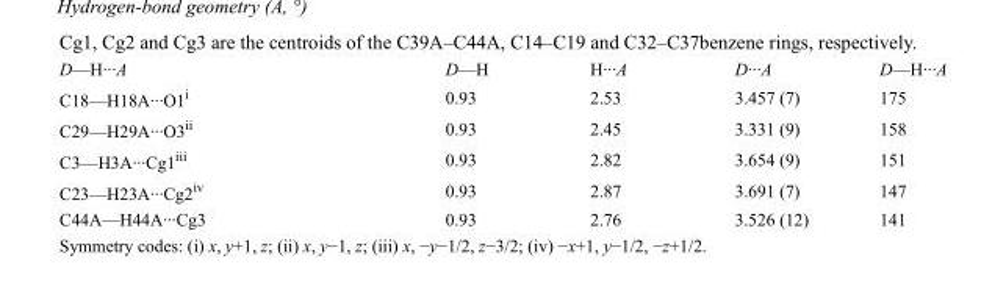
<table><tbody><tr><td>D—H···A</td><td>D—H</td><td>H···A</td><td>D···A</td><td>D—H···A</td></tr><tr><td>C18—H18A···O1<sup>i</sup></td><td>0.93</td><td>2.53</td><td>3.457 (7)</td><td>175</td></tr><tr><td>C29—H29A···O3<sup>ii</sup></td><td>0.93</td><td>2.45</td><td>3.331 (9)</td><td>158</td></tr><tr><td>C3—H3A···Cg1<sup>iii</sup></td><td>0.93</td><td>2.82</td><td>3.654 (9)</td><td>151</td></tr><tr><td>C23—H23A···Cg2<sup>iv</sup></td><td>0.93</td><td>2.87</td><td>3.691 (7)</td><td>147</td></tr><tr><td>C44A—H44A···Cg3</td><td>0.93</td><td>2.76</td><td>3.526 (12)</td><td>141</td></tr></tbody></table>